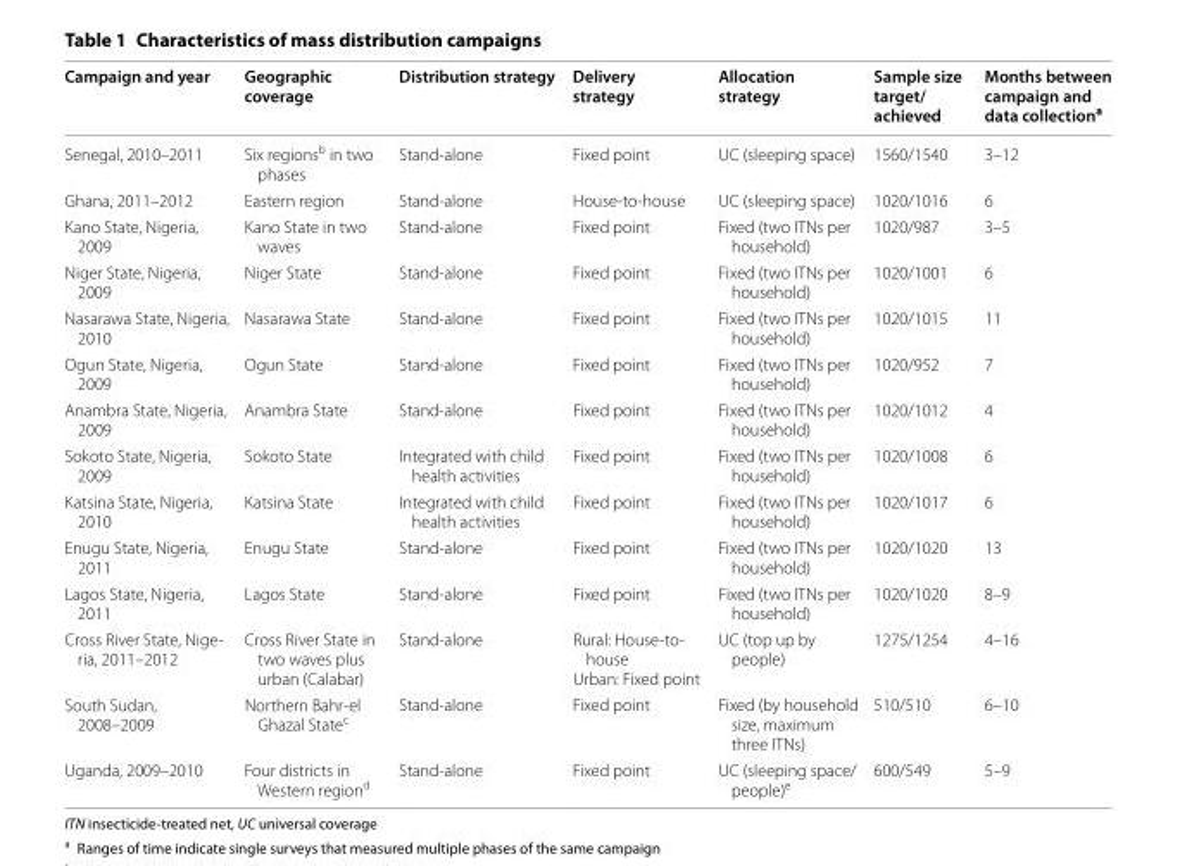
<table><thead><tr><td>Campaign and year</td><td>Geographic coverage</td><td>Distribution strategy</td><td>Delivery strategy</td><td>Allocation strategy</td><td>Sample size target/ achieved</td><td>Months between campaign and data collection<sup>a</sup></td></tr></thead><tbody><tr><td>Senegal, 2010–2011</td><td>Six regions<sup>b</sup> in two phases</td><td>Stand‑alone</td><td>Fixed point</td><td>UC (sleeping space)</td><td>1560/1540</td><td>3–12</td></tr><tr><td>Ghana, 2011–2012</td><td>Eastern region</td><td>Stand‑alone</td><td>House‑to‑house</td><td>UC (sleeping space)</td><td>1020/1016</td><td>6</td></tr><tr><td>Kano State, Nigeria, 2009</td><td>Kano State in two waves</td><td>Stand‑alone</td><td>Fixed point</td><td>Fixed (two ITNs per household)</td><td>1020/987</td><td>3–5</td></tr><tr><td>Niger State, Nigeria, 2009</td><td>Niger State</td><td>Stand‑alone</td><td>Fixed point</td><td>Fixed (two ITNs per household)</td><td>1020/1001</td><td>6</td></tr><tr><td>Nasarawa State, Nigeria, 2010</td><td>Nasarawa State</td><td>Stand‑alone</td><td>Fixed point</td><td>Fixed (two ITNs per household)</td><td>1020/1015</td><td>11</td></tr><tr><td>Ogun State, Nigeria, 2009</td><td>Ogun State</td><td>Stand‑alone</td><td>Fixed point</td><td>Fixed (two ITNs per household)</td><td>1020/952</td><td>7</td></tr><tr><td>Anambra State, Nigeria, 2009</td><td>Anambra State</td><td>Stand‑alone</td><td>Fixed point</td><td>Fixed (two ITNs per household)</td><td>1020/1012</td><td>4</td></tr><tr><td>Sokoto State, Nigeria, 2009</td><td>Sokoto State</td><td>Integrated with child health activities</td><td>Fixed point</td><td>Fixed (two ITNs per household)</td><td>1020/1008</td><td>6</td></tr><tr><td>Katsina State, Nigeria, 2010</td><td>Katsina State</td><td>Integrated with child health activities</td><td>Fixed point</td><td>Fixed (two ITNs per household)</td><td>1020/1017</td><td>6</td></tr><tr><td>Enugu State, Nigeria, 2011</td><td>Enugu State</td><td>Stand‑alone</td><td>Fixed point</td><td>Fixed (two ITNs per household)</td><td>1020/1020</td><td>13</td></tr><tr><td>Lagos State, Nigeria, 2011</td><td>Lagos State</td><td>Stand‑alone</td><td>Fixed point</td><td>Fixed (two ITNs per household)</td><td>1020/1020</td><td>8–9</td></tr><tr><td>Cross River State, Nige‑ ria, 2011–2012</td><td>Cross River State in two waves plus urban (Calabar)</td><td>Stand‑alone</td><td>Rural: House‑to‑ house Urban: Fixed point</td><td>UC (top up by people)</td><td>1275/1254</td><td>4–16</td></tr><tr><td>South Sudan, 2008–2009</td><td>Northern Bahr‑el Ghazal State<sup>c</sup></td><td>Stand‑alone</td><td>Fixed point</td><td>Fixed (by household size, maximum three ITNs)</td><td>510/510</td><td>6–10</td></tr><tr><td>Uganda, 2009–2010</td><td>Four districts in Western region<sup>d</sup></td><td>Stand‑alone</td><td>Fixed point</td><td>UC (sleeping space/ people)<sup>e</sup></td><td>600/549</td><td>5–9</td></tr></tbody></table>